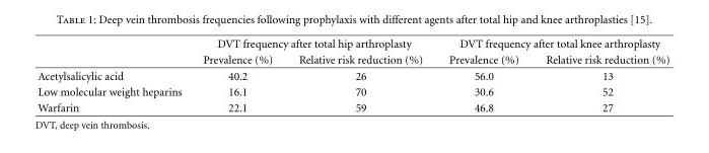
<table><thead><tr><td rowspan="2"></td><td colspan="2">DVT frequency after total hip arthroplasty</td><td colspan="2">DVT frequency after total knee arthroplasty</td></tr><tr><td>Prevalence (%)</td><td>Relative risk reduction (%)</td><td>Prevalence (%)</td><td>Relative risk reduction (%)</td></tr></thead><tbody><tr><td>Acetylsalicylic acid</td><td>40.2</td><td>26</td><td>56.0</td><td>13</td></tr><tr><td>Low molecular weight heparins</td><td>16.1</td><td>70</td><td>30.6</td><td>52</td></tr><tr><td>Warfarin</td><td>22.1</td><td>59</td><td>46.8</td><td>27</td></tr></tbody></table>